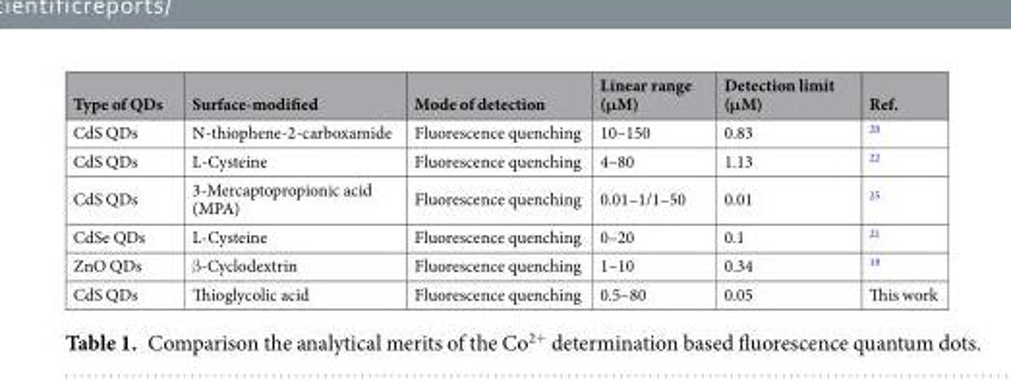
<table><thead><tr><td>Type of QDs</td><td>Surface-modified</td><td>Mode of detection</td><td>Linear range (μM)</td><td>Detection limit (μM)</td><td>Ref.</td></tr></thead><tbody><tr><td>CdS QDs</td><td>N-thiophene-2-carboxamide</td><td>Fluorescence quenching</td><td>10–150</td><td>0.83</td><td><sup>20</sup></td></tr><tr><td>CdS QDs</td><td>L-Cysteine</td><td>Fluorescence quenching</td><td>4–80</td><td>1.13</td><td><sup>22</sup></td></tr><tr><td>CdS QDs</td><td>3-Mercaptopropionic acid (MPA)</td><td>Fluorescence quenching</td><td>0.01–1/1–50</td><td>0.01</td><td><sup>25</sup></td></tr><tr><td>CdSe QDs</td><td>L-Cysteine</td><td>Fluorescence quenching</td><td>0–20</td><td>0.1</td><td><sup>21</sup></td></tr><tr><td>ZnO QDs</td><td>β-Cyclodextrin</td><td>Fluorescence quenching</td><td>1–10</td><td>0.34</td><td><sup>19</sup></td></tr><tr><td>CdS QDs</td><td>Thioglycolic acid</td><td>Fluorescence quenching</td><td>0.5–80</td><td>0.05</td><td>This work</td></tr></tbody></table>